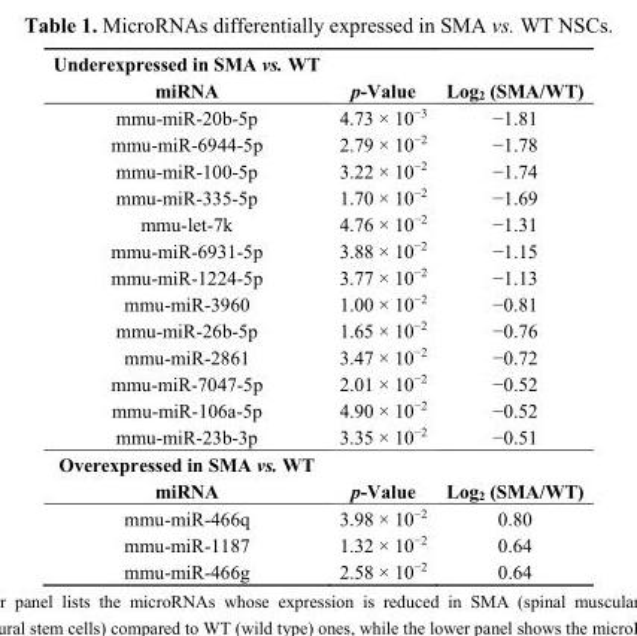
<table><tbody><tr><td colspan="3">Underexpressed in SMA vs. WT</td></tr><tr><td>miRNA</td><td>p-Value</td><td>Log<sub>2</sub> (SMA/WT)</td></tr><tr><td>mmu-miR-20b-5p</td><td>4.73 × 10<sup>−3</sup></td><td>−1.81</td></tr><tr><td>mmu-miR-6944-5p</td><td>2.79 × 10<sup>−2</sup></td><td>−1.78</td></tr><tr><td>mmu-miR-100-5p</td><td>3.22 × 10<sup>−2</sup></td><td>−1.74</td></tr><tr><td>mmu-miR-335-5p</td><td>1.70 × 10<sup>−2</sup></td><td>−1.69</td></tr><tr><td>mmu-let-7k</td><td>4.76 × 10<sup>−2</sup></td><td>−1.31</td></tr><tr><td>mmu-miR-6931-5p</td><td>3.88 × 10<sup>−2</sup></td><td>−1.15</td></tr><tr><td>mmu-miR-1224-5p</td><td>3.77 × 10<sup>−2</sup></td><td>−1.13</td></tr><tr><td>mmu-miR-3960</td><td>1.00 × 10<sup>−2</sup></td><td>−0.81</td></tr><tr><td>mmu-miR-26b-5p</td><td>1.65 × 10<sup>−2</sup></td><td>−0.76</td></tr><tr><td>mmu-miR-2861</td><td>3.47 × 10<sup>−2</sup></td><td>−0.72</td></tr><tr><td>mmu-miR-7047-5p</td><td>2.01 × 10<sup>−2</sup></td><td>−0.52</td></tr><tr><td>mmu-miR-106a-5p</td><td>4.90 × 10<sup>−2</sup></td><td>−0.52</td></tr><tr><td>mmu-miR-23b-3p</td><td>3.35 × 10<sup>−2</sup></td><td>−0.51</td></tr><tr><td colspan="3">Overexpressed in SMA vs. WT</td></tr><tr><td>miRNA</td><td>p-Value</td><td>Log<sub>2</sub> (SMA/WT)</td></tr><tr><td>mmu-miR-466q</td><td>3.98 × 10<sup>−2</sup></td><td>0.80</td></tr><tr><td>mmu-miR-1187</td><td>1.32 × 10<sup>−2</sup></td><td>0.64</td></tr><tr><td>mmu-miR-466g</td><td>2.58 × 10<sup>−2</sup></td><td>0.64</td></tr></tbody></table>